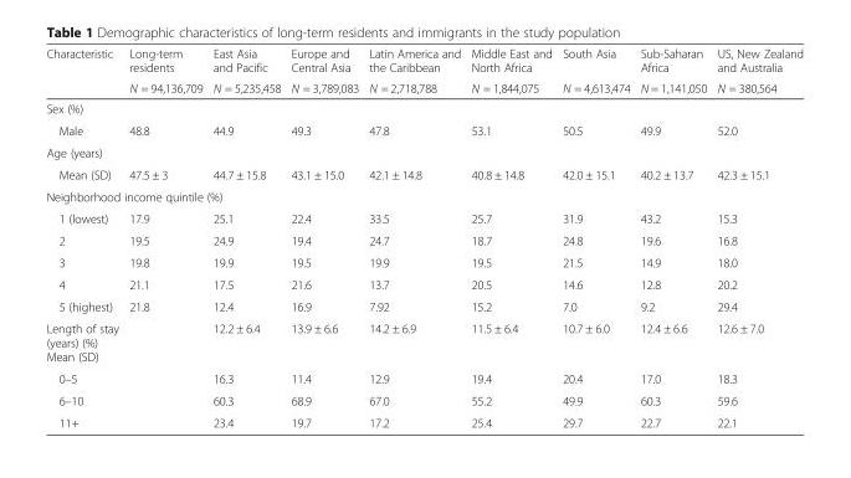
<table><thead><tr><td rowspan="2">Characteristic</td><td rowspan="2">Long-term residents N = 94,136,709</td><td rowspan="2">East Asia and Pacific N = 5,235,458</td><td rowspan="2">Europe and Central Asia N = 3,789,083</td><td rowspan="2">Latin America and the Caribbean N = 2,718,788</td><td rowspan="2">Middle East and North Africa N = 1,844,075</td><td rowspan="2">South Asia N = 4,613,474</td><td rowspan="2">Sub-Saharan Africa N = 1,141,050</td><td rowspan="2">US, New Zealand and Australia N = 380,564</td></tr><tr></tr></thead><tbody><tr><td colspan="9">Sex (%)</td></tr><tr><td>Male</td><td>48.8</td><td>44.9</td><td>49.3</td><td>47.8</td><td>53.1</td><td>50.5</td><td>49.9</td><td>52.0</td></tr><tr><td colspan="9">Age (years)</td></tr><tr><td>Mean (SD)</td><td>47.5 ± 3</td><td>44.7 ± 15.8</td><td>43.1 ± 15.0</td><td>42.1 ± 14.8</td><td>40.8 ± 14.8</td><td>42.0 ± 15.1</td><td>40.2 ± 13.7</td><td>42.3 ± 15.1</td></tr><tr><td colspan="9">Neighborhood income quintile (%)</td></tr><tr><td>1 (lowest)</td><td>17.9</td><td>25.1</td><td>22.4</td><td>33.5</td><td>25.7</td><td>31.9</td><td>43.2</td><td>15.3</td></tr><tr><td>2</td><td>19.5</td><td>24.9</td><td>19.4</td><td>24.7</td><td>18.7</td><td>24.8</td><td>19.6</td><td>16.8</td></tr><tr><td>3</td><td>19.8</td><td>19.9</td><td>19.5</td><td>19.9</td><td>19.5</td><td>21.5</td><td>14.9</td><td>18.0</td></tr><tr><td>4</td><td>21.1</td><td>17.5</td><td>21.6</td><td>13.7</td><td>20.5</td><td>14.6</td><td>12.8</td><td>20.2</td></tr><tr><td>5 (highest)</td><td>21.8</td><td>12.4</td><td>16.9</td><td>7.92</td><td>15.2</td><td>7.0</td><td>9.2</td><td>29.4</td></tr><tr><td>Length of stay (years) (%) Mean (SD)</td><td></td><td>12.2 ± 6.4</td><td>13.9 ± 6.6</td><td>14.2 ± 6.9</td><td>11.5 ± 6.4</td><td>10.7 ± 6.0</td><td>12.4 ± 6.6</td><td>12.6 ± 7.0</td></tr><tr><td>0–5</td><td></td><td>16.3</td><td>11.4</td><td>12.9</td><td>19.4</td><td>20.4</td><td>17.0</td><td>18.3</td></tr><tr><td>6–10</td><td></td><td>60.3</td><td>68.9</td><td>67.0</td><td>55.2</td><td>49.9</td><td>60.3</td><td>59.6</td></tr><tr><td>11+</td><td></td><td>23.4</td><td>19.7</td><td>17.2</td><td>25.4</td><td>29.7</td><td>22.7</td><td>22.1</td></tr></tbody></table>